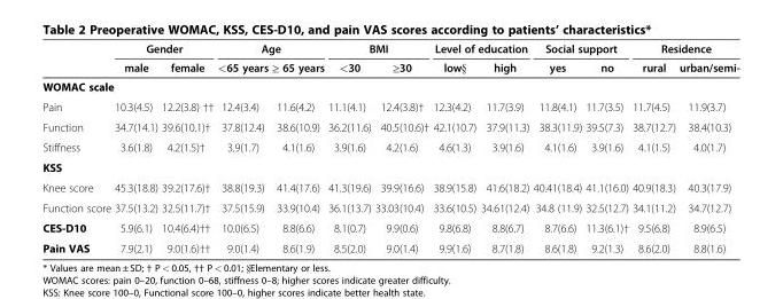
<table><thead><tr><td rowspan="2"></td><td colspan="2">Gender</td><td colspan="2">Age</td><td colspan="2">BMI</td><td colspan="2">Level of education</td><td colspan="2">Social support</td><td colspan="2">Residence</td></tr><tr><td>male</td><td>female</td><td>&lt;65 years</td><td>≥ 65 years</td><td>&lt;30</td><td>≥30</td><td>low§</td><td>high</td><td>yes</td><td>no</td><td>rural</td><td>urban/semi-</td></tr></thead><tbody><tr><td colspan="13">WOMAC scale</td></tr><tr><td>Pain</td><td>10.3(4.5)</td><td>12.2(3.8) ††</td><td>12.4(3.4)</td><td>11.6(4.2)</td><td>11.1(4.1)</td><td>12.4(3.8)†</td><td>12.3(4.2)</td><td>11.7(3.9)</td><td>11.8(4.1)</td><td>11.7(3.5)</td><td>11.7(4.5)</td><td>11.9(3.7)</td></tr><tr><td>Function</td><td>34.7(14.1)</td><td>39.6(10.1)†</td><td>37.8(12.4)</td><td>38.6(10.9)</td><td>36.2(11.6)</td><td>40.5(10.6)†</td><td>42.1(10.7)</td><td>37.9(11.3)</td><td>38.3(11.9)</td><td>39.5(7.3)</td><td>38.7(12.7)</td><td>38.4(10.3)</td></tr><tr><td>Stiffness</td><td>3.6(1.8)</td><td>4.2(1.5)†</td><td>3.9(1.7)</td><td>4.1(1.6)</td><td>3.9(1.6)</td><td>4.2(1.6)</td><td>4.6(1.3)</td><td>3.9(1.6)</td><td>4.1(1.6)</td><td>3.9(1.6)</td><td>4.1(1.5)</td><td>4.0(1.7)</td></tr><tr><td colspan="13">KSS</td></tr><tr><td>Knee score</td><td>45.3(18.8)</td><td>39.2(17.6)†</td><td>38.8(19.3)</td><td>41.4(17.6)</td><td>41.3(19.6)</td><td>39.9(16.6)</td><td>38.9(15.8)</td><td>41.6(18.2)</td><td>40.41(18.4)</td><td>41.1(16.0)</td><td>40.9(18.3)</td><td>40.3(17.9)</td></tr><tr><td>Function score</td><td>37.5(13.2)</td><td>32.5(11.7)†</td><td>37.5(15.9)</td><td>33.9(10.4)</td><td>36.1(13.7)</td><td>33.03(10.4)</td><td>33.6(10.5)</td><td>34.61(12.4)</td><td>34.8 (11.9)</td><td>32.5(12.7)</td><td>34.1(11.2)</td><td>34.7(12.7)</td></tr><tr><td>CES-D10</td><td>5.9(6.1)</td><td>10.4(6.4)††</td><td>10.0(6.5)</td><td>8.8(6.6)</td><td>8.1(0.7)</td><td>9.9(0.6)</td><td>9.8(6.8)</td><td>8.8(6.7)</td><td>8.7(6.6)</td><td>11.3(6.1)†</td><td>9.5(6.8)</td><td>8.9(6.5)</td></tr><tr><td>Pain VAS</td><td>7.9(2.1)</td><td>9.0(1.6)††</td><td>9.0(1.4)</td><td>8.6(1.9)</td><td>8.5(2.0)</td><td>9.0(1.4)</td><td>9.9(1.6)</td><td>8.7(1.8)</td><td>8.6(1.8)</td><td>9.2(1.3)</td><td>8.6(2.0)</td><td>8.8(1.6)</td></tr></tbody></table>